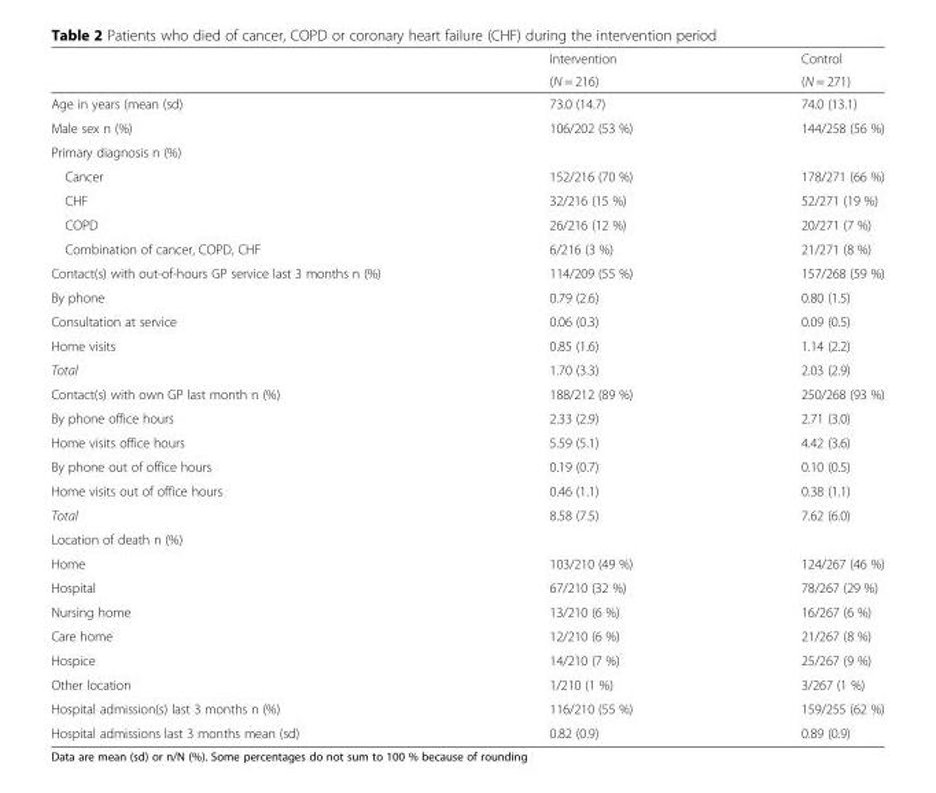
<table><thead><tr><td rowspan="2"></td><td rowspan="2">Intervention (N = 216)</td><td rowspan="2">Control (N = 271)</td></tr><tr></tr></thead><tbody><tr><td>Age in years (mean (sd)</td><td>73.0 (14.7)</td><td>74.0 (13.1)</td></tr><tr><td>Male sex n (%)</td><td>106/202 (53 %)</td><td>144/258 (56 %)</td></tr><tr><td colspan="3">Primary diagnosis n (%)</td></tr><tr><td>Cancer</td><td>152/216 (70 %)</td><td>178/271 (66 %)</td></tr><tr><td>CHF</td><td>32/216 (15 %)</td><td>52/271 (19 %)</td></tr><tr><td>COPD</td><td>26/216 (12 %)</td><td>20/271 (7 %)</td></tr><tr><td>Combination of cancer, COPD, CHF</td><td>6/216 (3 %)</td><td>21/271 (8 %)</td></tr><tr><td>Contact(s) with out-of-hours GP service last 3 months n (%)</td><td>114/209 (55 %)</td><td>157/268 (59 %)</td></tr><tr><td>By phone</td><td>0.79 (2.6)</td><td>0.80 (1.5)</td></tr><tr><td>Consultation at service</td><td>0.06 (0.3)</td><td>0.09 (0.5)</td></tr><tr><td>Home visits</td><td>0.85 (1.6)</td><td>1.14 (2.2)</td></tr><tr><td>Total</td><td>1.70 (3.3)</td><td>2.03 (2.9)</td></tr><tr><td>Contact(s) with own GP last month n (%)</td><td>188/212 (89 %)</td><td>250/268 (93 %)</td></tr><tr><td>By phone office hours</td><td>2.33 (2.9)</td><td>2.71 (3.0)</td></tr><tr><td>Home visits office hours</td><td>5.59 (5.1)</td><td>4.42 (3.6)</td></tr><tr><td>By phone out of office hours</td><td>0.19 (0.7)</td><td>0.10 (0.5)</td></tr><tr><td>Home visits out of office hours</td><td>0.46 (1.1)</td><td>0.38 (1.1)</td></tr><tr><td>Total</td><td>8.58 (7.5)</td><td>7.62 (6.0)</td></tr><tr><td colspan="3">Location of death n (%)</td></tr><tr><td>Home</td><td>103/210 (49 %)</td><td>124/267 (46 %)</td></tr><tr><td>Hospital</td><td>67/210 (32 %)</td><td>78/267 (29 %)</td></tr><tr><td>Nursing home</td><td>13/210 (6 %)</td><td>16/267 (6 %)</td></tr><tr><td>Care home</td><td>12/210 (6 %)</td><td>21/267 (8 %)</td></tr><tr><td>Hospice</td><td>14/210 (7 %)</td><td>25/267 (9 %)</td></tr><tr><td>Other location</td><td>1/210 (1 %)</td><td>3/267 (1 %)</td></tr><tr><td>Hospital admission(s) last 3 months n (%)</td><td>116/210 (55 %)</td><td>159/255 (62 %)</td></tr><tr><td>Hospital admissions last 3 months mean (sd)</td><td>0.82 (0.9)</td><td>0.89 (0.9)</td></tr></tbody></table>